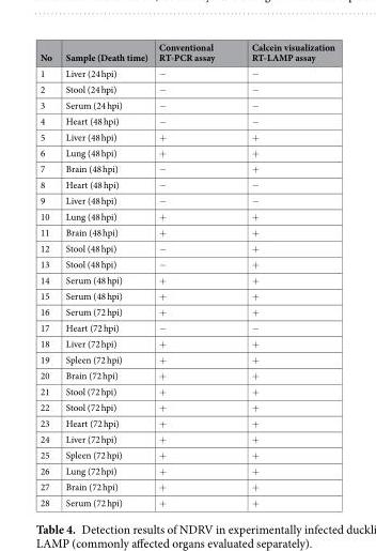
<table><thead><tr><td>No</td><td>Sample (Death time)</td><td>Conventional RT-PCR assay</td><td>Calcein visualization RT-LAMP assay</td></tr></thead><tbody><tr><td>1</td><td>Liver (24 hpi)</td><td>−</td><td>−</td></tr><tr><td>2</td><td>Stool (24 hpi)</td><td>−</td><td>−</td></tr><tr><td>3</td><td>Serum (24 hpi)</td><td>−</td><td>−</td></tr><tr><td>4</td><td>Heart (48 hpi)</td><td>−</td><td>−</td></tr><tr><td>5</td><td>Liver (48 hpi)</td><td>+</td><td>+</td></tr><tr><td>6</td><td>Lung (48 hpi)</td><td>+</td><td>+</td></tr><tr><td>7</td><td>Brain (48 hpi)</td><td>−</td><td>+</td></tr><tr><td>8</td><td>Heart (48 hpi)</td><td>−</td><td>−</td></tr><tr><td>9</td><td>Liver (48 hpi)</td><td>−</td><td>−</td></tr><tr><td>10</td><td>Lung (48 hpi)</td><td>+</td><td>+</td></tr><tr><td>11</td><td>Brain (48 hpi)</td><td>+</td><td>+</td></tr><tr><td>12</td><td>Stool (48 hpi)</td><td>−</td><td>+</td></tr><tr><td>13</td><td>Stool (48 hpi)</td><td>−</td><td>+</td></tr><tr><td>14</td><td>Serum (48 hpi)</td><td>+</td><td>+</td></tr><tr><td>15</td><td>Serum (48 hpi)</td><td>+</td><td>+</td></tr><tr><td>16</td><td>Serum (72 hpi)</td><td>+</td><td>+</td></tr><tr><td>17</td><td>Heart (72 hpi)</td><td>−</td><td>−</td></tr><tr><td>18</td><td>Liver (72 hpi)</td><td>+</td><td>+</td></tr><tr><td>19</td><td>Spleen (72 hpi)</td><td>+</td><td>+</td></tr><tr><td>20</td><td>Brain (72 hpi)</td><td>+</td><td>+</td></tr><tr><td>21</td><td>Stool (72 hpi)</td><td>+</td><td>+</td></tr><tr><td>22</td><td>Stool (72 hpi)</td><td>+</td><td>+</td></tr><tr><td>23</td><td>Heart (72 hpi)</td><td>+</td><td>+</td></tr><tr><td>24</td><td>Liver (72 hpi)</td><td>+</td><td>+</td></tr><tr><td>25</td><td>Spleen (72 hpi)</td><td>+</td><td>+</td></tr><tr><td>26</td><td>Lung (72 hpi)</td><td>+</td><td>+</td></tr><tr><td>27</td><td>Brain (72 hpi)</td><td>+</td><td>+</td></tr><tr><td>28</td><td>Serum (72 hpi)</td><td>+</td><td>+</td></tr></tbody></table>